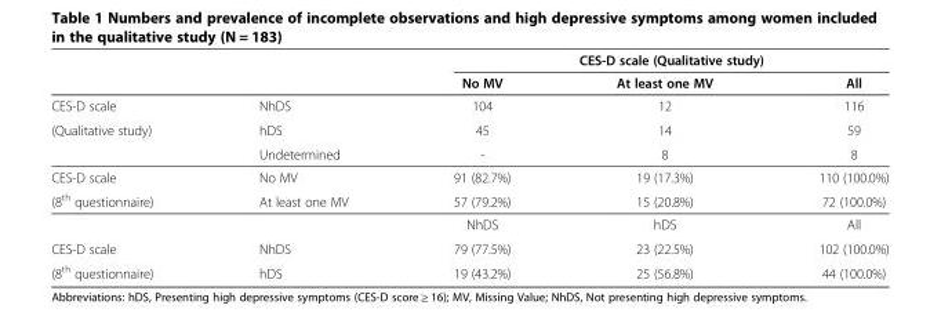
<table><thead><tr><td rowspan="2"></td><td rowspan="2"></td><td colspan="3">CES-D scale (Qualitative study)</td></tr><tr><td>No MV</td><td>At least one MV</td><td>All</td></tr></thead><tbody><tr><td>CES-D scale</td><td>NhDS</td><td>104</td><td>12</td><td>116</td></tr><tr><td rowspan="2">(Qualitative study)</td><td>hDS</td><td>45</td><td>14</td><td>59</td></tr><tr><td>Undetermined</td><td>-</td><td>8</td><td>8</td></tr><tr><td>CES-D scale</td><td>No MV</td><td>91 (82.7%)</td><td>19 (17.3%)</td><td>110 (100.0%)</td></tr><tr><td rowspan="2">(8<sup>th</sup> questionnaire)</td><td>At least one MV</td><td>57 (79.2%)</td><td>15 (20.8%)</td><td>72 (100.0%)</td></tr><tr><td></td><td>NhDS</td><td>hDS</td><td>All</td></tr><tr><td>CES-D scale</td><td>NhDS</td><td>79 (77.5%)</td><td>23 (22.5%)</td><td>102 (100.0%)</td></tr><tr><td>(8<sup>th</sup> questionnaire)</td><td>hDS</td><td>19 (43.2%)</td><td>25 (56.8%)</td><td>44 (100.0%)</td></tr></tbody></table>